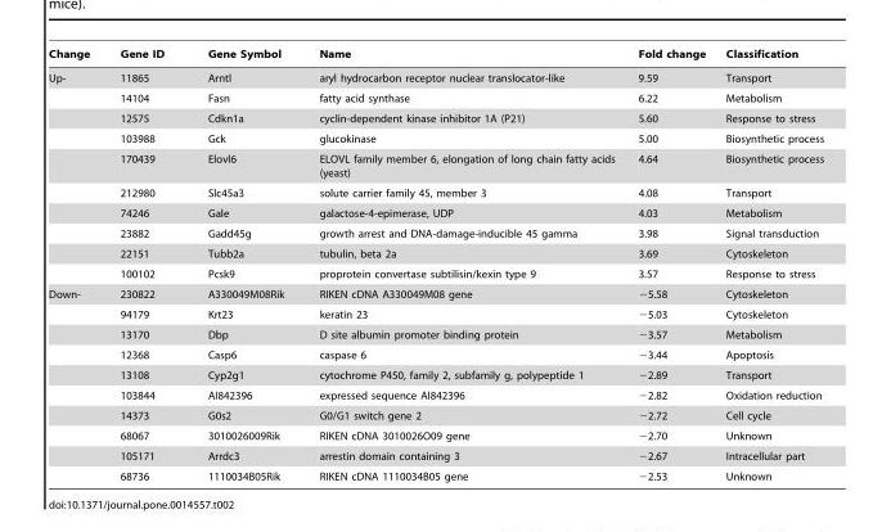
<table><thead><tr><td>Change</td><td>Gene ID</td><td>Gene Symbol</td><td>Name</td><td>Fold change</td><td>Classification</td></tr></thead><tbody><tr><td rowspan="10">Up-</td><td>11865</td><td>Arntl</td><td>aryl hydrocarbon receptor nuclear translocator-like</td><td>9.59</td><td>Transport</td></tr><tr><td>14104</td><td>Fasn</td><td>fatty acid synthase</td><td>6.22</td><td>Metabolism</td></tr><tr><td>12575</td><td>Cdkn1a</td><td>cyclin-dependent kinase inhibitor 1A (P21)</td><td>5.60</td><td>Response to stress</td></tr><tr><td>103988</td><td>Gck</td><td>glucokinase</td><td>5.00</td><td>Biosynthetic process</td></tr><tr><td>170439</td><td>Elovl6</td><td>ELOVL family member 6, elongation of long chain fatty acids (yeast)</td><td>4.64</td><td>Biosynthetic process</td></tr><tr><td>212980</td><td>Slc45a3</td><td>solute carrier family 45, member 3</td><td>4.08</td><td>Transport</td></tr><tr><td>74246</td><td>Gale</td><td>galactose-4-epimerase, UDP</td><td>4.03</td><td>Metabolism</td></tr><tr><td>23882</td><td>Gadd45g</td><td>growth arrest and DNA-damage-inducible 45 gamma</td><td>3.98</td><td>Signal transduction</td></tr><tr><td>22151</td><td>Tubb2a</td><td>tubulin, beta 2a</td><td>3.69</td><td>Cytoskeleton</td></tr><tr><td>100102</td><td>Pcsk9</td><td>proprotein convertase subtilisin/kexin type 9</td><td>3.57</td><td>Response to stress</td></tr><tr><td rowspan="10">Down-</td><td>230822</td><td>A330049M08Rik</td><td>RIKEN cDNA A330049M08 gene</td><td>−5.58</td><td>Cytoskeleton</td></tr><tr><td>94179</td><td>Krt23</td><td>keratin 23</td><td>−5.03</td><td>Cytoskeleton</td></tr><tr><td>13170</td><td>Dbp</td><td>D site albumin promoter binding protein</td><td>−3.57</td><td>Metabolism</td></tr><tr><td>12368</td><td>Casp6</td><td>caspase 6</td><td>−3.44</td><td>Apoptosis</td></tr><tr><td>13108</td><td>Cyp2g1</td><td>cytochrome P450, family 2, subfamily g, polypeptide 1</td><td>−2.89</td><td>Transport</td></tr><tr><td>103844</td><td>AI842396</td><td>expressed sequence AI842396</td><td>−2.82</td><td>Oxidation reduction</td></tr><tr><td>14373</td><td>G0s2</td><td>G0/G1 switch gene 2</td><td>−2.72</td><td>Cell cycle</td></tr><tr><td>68067</td><td>3010026009Rik</td><td>RIKEN cDNA 3010026O09 gene</td><td>−2.70</td><td>Unknown</td></tr><tr><td>105171</td><td>Arrdc3</td><td>arrestin domain containing 3</td><td>−2.67</td><td>Intracellular part</td></tr><tr><td>68736</td><td>1110034B05Rik</td><td>RIKEN cDNA 1110034B05 gene</td><td>−2.53</td><td>Unknown</td></tr></tbody></table>